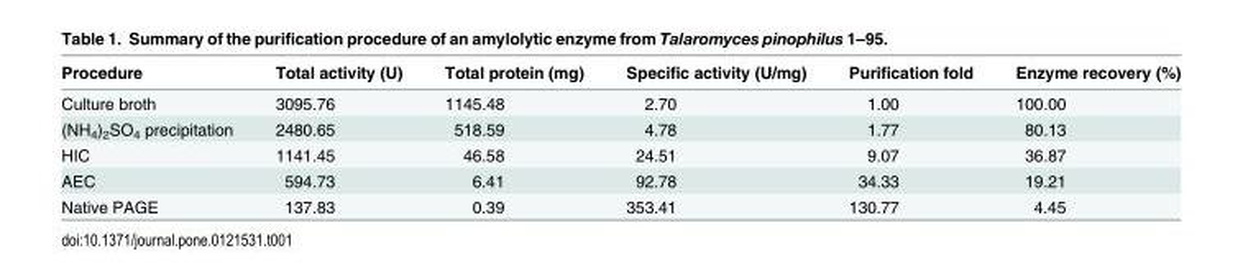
<table><thead><tr><td>Procedure</td><td>Total activity (U)</td><td>Total protein (mg)</td><td>Specific activity (U/mg)</td><td>Purification fold</td><td>Enzyme recovery (%)</td></tr></thead><tbody><tr><td>Culture broth</td><td>3095.76</td><td>1145.48</td><td>2.70</td><td>1.00</td><td>100.00</td></tr><tr><td>(NH<sub>4</sub>)<sub>2</sub>SO<sub>4</sub> precipitation</td><td>2480.65</td><td>518.59</td><td>4.78</td><td>1.77</td><td>80.13</td></tr><tr><td>HIC</td><td>1141.45</td><td>46.58</td><td>24.51</td><td>9.07</td><td>36.87</td></tr><tr><td>AEC</td><td>594.73</td><td>6.41</td><td>92.78</td><td>34.33</td><td>19.21</td></tr><tr><td>Native PAGE</td><td>137.83</td><td>0.39</td><td>353.41</td><td>130.77</td><td>4.45</td></tr></tbody></table>